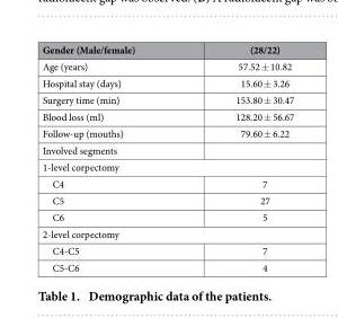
<table><thead><tr><td>Gender (Male/female)</td><td>(28/22)</td></tr></thead><tbody><tr><td>Age (years)</td><td>57.52 ± 10.82</td></tr><tr><td>Hospital stay (days)</td><td>15.60 ± 3.26</td></tr><tr><td>Surgery time (min)</td><td>153.80 ± 30.47</td></tr><tr><td>Blood loss (ml)</td><td>128.20 ± 56.67</td></tr><tr><td>Follow-up (mouths)</td><td>79.60 ± 6.22</td></tr><tr><td colspan="2">Involved segments</td></tr><tr><td colspan="2">1-level corpectomy</td></tr><tr><td>C4</td><td>7</td></tr><tr><td>C5</td><td>27</td></tr><tr><td>C6</td><td>5</td></tr><tr><td colspan="2">2-level corpectomy</td></tr><tr><td>C4-C5</td><td>7</td></tr><tr><td>C5-C6</td><td>4</td></tr></tbody></table>